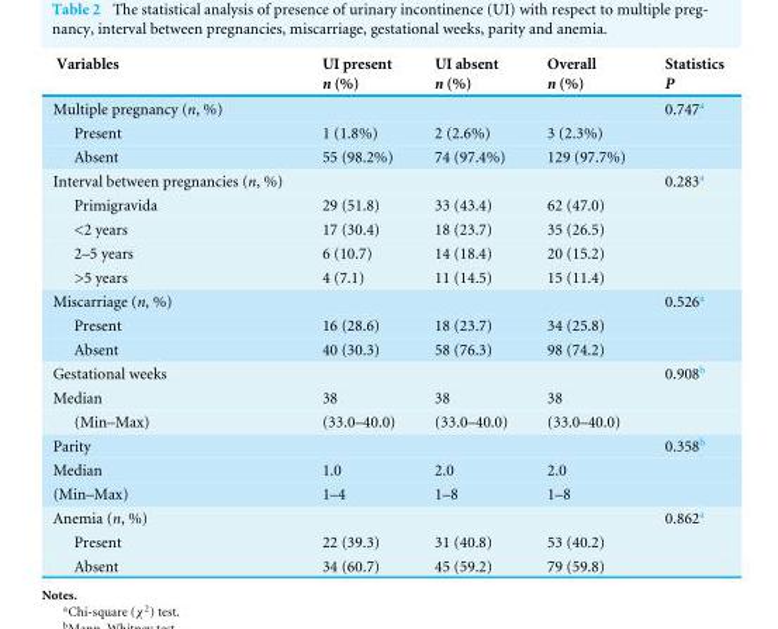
<table><thead><tr><td rowspan="2">Variables</td><td rowspan="2">UI present n (%)</td><td rowspan="2">UI absent n (%)</td><td rowspan="2">Overall n (%)</td><td rowspan="2">Statistics P</td></tr><tr></tr></thead><tbody><tr><td>Multiple pregnancy (n, %)</td><td></td><td></td><td></td><td>0.747<sup>a</sup></td></tr><tr><td>Present</td><td>1 (1.8%)</td><td>2 (2.6%)</td><td>3 (2.3%)</td><td></td></tr><tr><td>Absent</td><td>55 (98.2%)</td><td>74 (97.4%)</td><td>129 (97.7%)</td><td></td></tr><tr><td>Interval between pregnancies (n, %)</td><td></td><td></td><td></td><td>0.283<sup>a</sup></td></tr><tr><td>Primigravida</td><td>29 (51.8)</td><td>33 (43.4)</td><td>62 (47.0)</td><td></td></tr><tr><td>&lt;2 years</td><td>17 (30.4)</td><td>18 (23.7)</td><td>35 (26.5)</td><td></td></tr><tr><td>2–5 years</td><td>6 (10.7)</td><td>14 (18.4)</td><td>20 (15.2)</td><td></td></tr><tr><td>&gt;5 years</td><td>4 (7.1)</td><td>11 (14.5)</td><td>15 (11.4)</td><td></td></tr><tr><td>Miscarriage (n, %)</td><td></td><td></td><td></td><td>0.526<sup>a</sup></td></tr><tr><td>Present</td><td>16 (28.6)</td><td>18 (23.7)</td><td>34 (25.8)</td><td></td></tr><tr><td>Absent</td><td>40 (30.3)</td><td>58 (76.3)</td><td>98 (74.2)</td><td></td></tr><tr><td>Gestational weeks</td><td></td><td></td><td></td><td>0.908<sup>b</sup></td></tr><tr><td>Median</td><td>38</td><td>38</td><td>38</td><td></td></tr><tr><td>(Min–Max)</td><td>(33.0–40.0)</td><td>(33.0–40.0)</td><td>(33.0–40.0)</td><td></td></tr><tr><td>Parity</td><td></td><td></td><td></td><td>0.358<sup>b</sup></td></tr><tr><td>Median</td><td>1.0</td><td>2.0</td><td>2.0</td><td></td></tr><tr><td>(Min–Max)</td><td>1–4</td><td>1–8</td><td>1–8</td><td></td></tr><tr><td>Anemia (n, %)</td><td></td><td></td><td></td><td>0.862<sup>a</sup></td></tr><tr><td>Present</td><td>22 (39.3)</td><td>31 (40.8)</td><td>53 (40.2)</td><td></td></tr><tr><td>Absent</td><td>34 (60.7)</td><td>45 (59.2)</td><td>79 (59.8)</td><td></td></tr></tbody></table>